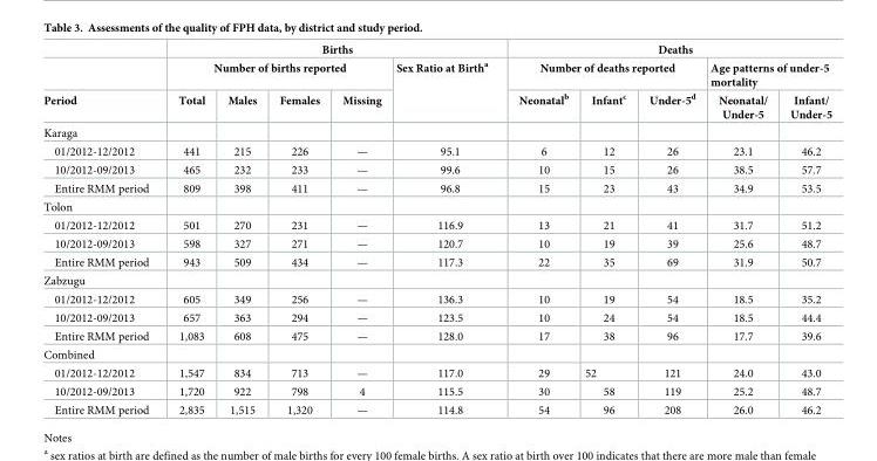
<table><thead><tr><td rowspan="3">Period</td><td colspan="5">Births</td><td colspan="5">Deaths</td></tr><tr><td colspan="4">Number of births reported</td><td rowspan="2">Sex Ratio at Birth<sup>a</sup></td><td colspan="3">Number of deaths reported</td><td colspan="2">Age patterns of under-5 mortality</td></tr><tr><td>Total</td><td>Males</td><td>Females</td><td>Missing</td><td>Neonatal<sup>b</sup></td><td>Infant<sup>c</sup></td><td>Under-5<sup>d</sup></td><td>Neonatal/ Under-5</td><td>Infant/ Under-5</td></tr></thead><tbody><tr><td colspan="11">Karaga</td></tr><tr><td>01/2012-12/2012</td><td>441</td><td>215</td><td>226</td><td>—</td><td>95.1</td><td>6</td><td>12</td><td>26</td><td>23.1</td><td>46.2</td></tr><tr><td>10/2012-09/2013</td><td>465</td><td>232</td><td>233</td><td>—</td><td>99.6</td><td>10</td><td>15</td><td>26</td><td>38.5</td><td>57.7</td></tr><tr><td>Entire RMM period</td><td>809</td><td>398</td><td>411</td><td>—</td><td>96.8</td><td>15</td><td>23</td><td>43</td><td>34.9</td><td>53.5</td></tr><tr><td colspan="11">Tolon</td></tr><tr><td>01/2012-12/2012</td><td>501</td><td>270</td><td>231</td><td>—</td><td>116.9</td><td>13</td><td>21</td><td>41</td><td>31.7</td><td>51.2</td></tr><tr><td>10/2012-09/2013</td><td>598</td><td>327</td><td>271</td><td>—</td><td>120.7</td><td>10</td><td>19</td><td>39</td><td>25.6</td><td>48.7</td></tr><tr><td>Entire RMM period</td><td>943</td><td>509</td><td>434</td><td>—</td><td>117.3</td><td>22</td><td>35</td><td>69</td><td>31.9</td><td>50.7</td></tr><tr><td colspan="11">Zabzugu</td></tr><tr><td>01/2012-12/2012</td><td>605</td><td>349</td><td>256</td><td>—</td><td>136.3</td><td>10</td><td>19</td><td>54</td><td>18.5</td><td>35.2</td></tr><tr><td>10/2012-09/2013</td><td>657</td><td>363</td><td>294</td><td>—</td><td>123.5</td><td>10</td><td>24</td><td>54</td><td>18.5</td><td>44.4</td></tr><tr><td>Entire RMM period</td><td>1,083</td><td>608</td><td>475</td><td>—</td><td>128.0</td><td>17</td><td>38</td><td>96</td><td>17.7</td><td>39.6</td></tr><tr><td colspan="11">Combined</td></tr><tr><td>01/2012-12/2012</td><td>1,547</td><td>834</td><td>713</td><td>—</td><td>117.0</td><td>29</td><td>52</td><td>121</td><td>24.0</td><td>43.0</td></tr><tr><td>10/2012-09/2013</td><td>1,720</td><td>922</td><td>798</td><td>4</td><td>115.5</td><td>30</td><td>58</td><td>119</td><td>25.2</td><td>48.7</td></tr><tr><td>Entire RMM period</td><td>2,835</td><td>1,515</td><td>1,320</td><td>—</td><td>114.8</td><td>54</td><td>96</td><td>208</td><td>26.0</td><td>46.2</td></tr></tbody></table>